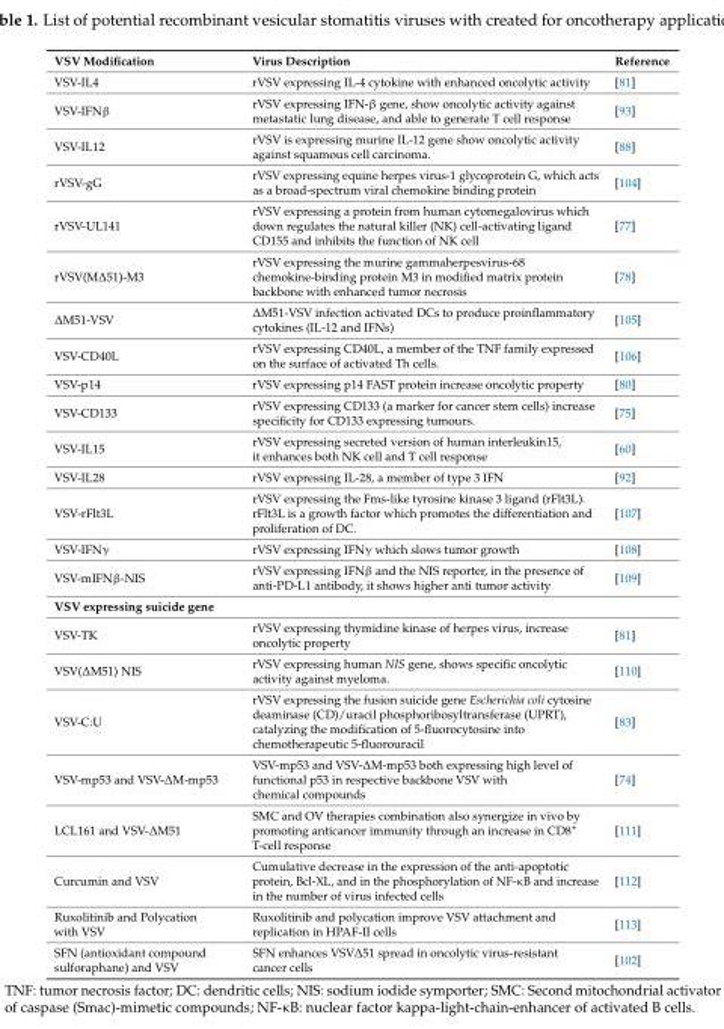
<table><thead><tr><td>VSV Modification</td><td>Virus Description</td><td>Reference</td></tr></thead><tbody><tr><td>VSV-IL4</td><td>rVSV expressing IL-4 cytokine with enhanced oncolytic activity</td><td>[81]</td></tr><tr><td>VSV-IFNβ</td><td>rVSV expressing IFN-β gene, show oncolytic activity against metastatic lung disease, and able to generate T cell response</td><td>[93]</td></tr><tr><td>VSV-IL12</td><td>rVSV is expressing murine IL-12 gene show oncolytic activity against squamous cell carcinoma.</td><td>[88]</td></tr><tr><td>rVSV-gG</td><td>rVSV expressing equine herpes virus-1 glycoprotein G, which acts as a broad-spectrum viral chemokine binding protein</td><td>[104]</td></tr><tr><td>rVSV-UL141</td><td>rVSV expressing a protein from human cytomegalovirus which down regulates the natural killer (NK) cell-activating ligand CD155 and inhibits the function of NK cell</td><td>[77]</td></tr><tr><td>rVSV(M∆51)-M3</td><td>rVSV expressing the murine gammaherpesvirus-68 chemokine-binding protein M3 in modified matrix protein backbone with enhanced tumor necrosis</td><td>[78]</td></tr><tr><td>∆M51-VSV</td><td>∆M51-VSV infection activated DCs to produce proinflammatory cytokines (IL-12 and IFNs)</td><td>[105]</td></tr><tr><td>VSV-CD40L</td><td>rVSV expressing CD40L, a member of the TNF family expressed on the surface of activated Th cells.</td><td>[106]</td></tr><tr><td>VSV-p14</td><td>rVSV expressing p14 FAST protein increase oncolytic property</td><td>[80]</td></tr><tr><td>VSV-CD133</td><td>rVSV expressing CD133 (a marker for cancer stem cells) increase specificity for CD133 expressing tumours.</td><td>[75]</td></tr><tr><td>VSV-IL15</td><td>rVSV expressing secreted version of human interleukin15, it enhances both NK cell and T cell response</td><td>[60]</td></tr><tr><td>VSV-IL28</td><td>rVSV expressing IL-28, a member of type 3 IFN</td><td>[92]</td></tr><tr><td>VSV-rFlt3L</td><td>rVSV expressing the Fms-like tyrosine kinase 3 ligand (rFlt3L). rFlt3L is a growth factor which promotes the differentiation and proliferation of DC.</td><td>[107]</td></tr><tr><td>VSV-IFNγ</td><td>rVSV expressing IFNγ which slows tumor growth</td><td>[108]</td></tr><tr><td>VSV-mIFNβ-NIS</td><td>rVSV expressing IFNβ and the NIS reporter, in the presence of anti-PD-L1 antibody, it shows higher anti tumor activity</td><td>[109]</td></tr><tr><td colspan="3">VSV expressing suicide gene</td></tr><tr><td>VSV-TK</td><td>rVSV expressing thymidine kinase of herpes virus, increase oncolytic property</td><td>[81]</td></tr><tr><td>VSV(∆M51) NIS</td><td>rVSV expressing human NIS gene, shows specific oncolytic activity against myeloma.</td><td>[110]</td></tr><tr><td>VSV-C:U</td><td>rVSV expressing the fusion suicide gene Escherichia coli cytosine deaminase (CD)/uracil phosphoribosyltransferase (UPRT), catalyzing the modification of 5-fluorocytosine into chemotherapeutic 5-fluorouracil</td><td>[83]</td></tr><tr><td>VSV-mp53 and VSV-∆M-mp53</td><td>VSV-mp53 and VSV-∆M-mp53 both expressing high level of functional p53 in respective backbone VSV with chemical compounds</td><td>[74]</td></tr><tr><td>LCL161 and VSV-∆M51</td><td>SMC and OV therapies combination also synergize in vivo by promoting anticancer immunity through an increase in CD8<sup>+</sup> T-cell response</td><td>[111]</td></tr><tr><td>Curcumin and VSV</td><td>Cumulative decrease in the expression of the anti-apoptotic protein, Bcl-XL, and in the phosphorylation of NF-κB and increase in the number of virus infected cells</td><td>[112]</td></tr><tr><td>Ruxolitinib and Polycation with VSV</td><td>Ruxolitinib and polycation improve VSV attachment and replication in HPAF-II cells</td><td>[113]</td></tr><tr><td>SFN (antioxidant compound sulforaphane) and VSV</td><td>SFN enhances VSV∆51 spread in oncolytic virus-resistant cancer cells</td><td>[102]</td></tr></tbody></table>